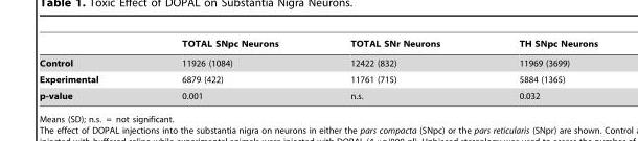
<table><thead><tr><td></td><td>TOTAL SNpc Neurons</td><td>TOTAL SNr Neurons</td><td>TH SNpc Neurons</td></tr></thead><tbody><tr><td>Control</td><td>11926 (1084)</td><td>12422 (832)</td><td>11969 (3699)</td></tr><tr><td>Experimental</td><td>6879 (422)</td><td>11761 (715)</td><td>5884 (1365)</td></tr><tr><td>p-value</td><td>0.001</td><td>n.s.</td><td>0.032</td></tr></tbody></table>